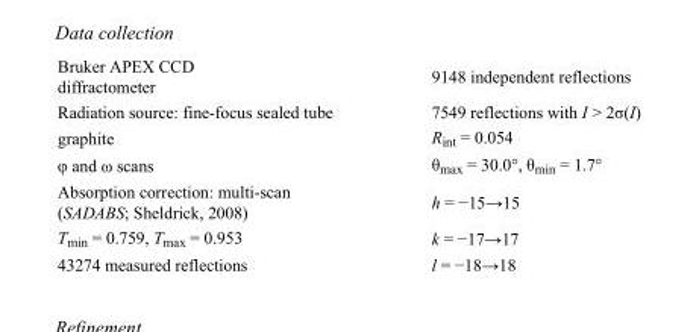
<table><tbody><tr><td>Bruker APEX CCD diffractometer</td><td>9148 independent reflections</td></tr><tr><td>Radiation source: fine-focus sealed tube</td><td>7549 reflections with I &gt; 2σ(I)</td></tr><tr><td>graphite</td><td>R<sub>int</sub> = 0.054</td></tr><tr><td>φ and ω scans</td><td>θ<sub>max</sub> = 30.0°, θ<sub>min</sub> = 1.7°</td></tr><tr><td>Absorption correction: multi-scan (SADABS; Sheldrick, 2008)</td><td>h = −15→15</td></tr><tr><td>T<sub>min</sub> = 0.759, T<sub>max</sub> = 0.953</td><td>k = −17→17</td></tr><tr><td>43274 measured reflections</td><td>l = −18→18</td></tr></tbody></table>